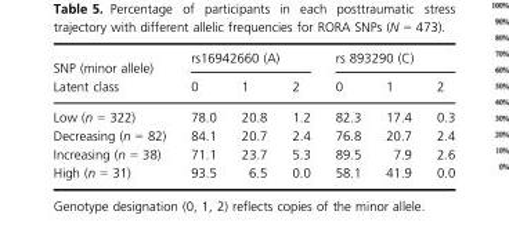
<table><thead><tr><td rowspan="2">SNP (minor allele) Latent class</td><td colspan="3">rs16942660 (A)</td><td colspan="3">rs 893290 (C)</td></tr><tr><td>0</td><td>1</td><td>2</td><td>0</td><td>1</td><td>2</td></tr></thead><tbody><tr><td>Low (n = 322)</td><td>78.0</td><td>20.8</td><td>1.2</td><td>82.3</td><td>17.4</td><td>0.3</td></tr><tr><td>Decreasing (n = 82)</td><td>84.1</td><td>20.7</td><td>2.4</td><td>76.8</td><td>20.7</td><td>2.4</td></tr><tr><td>Increasing (n = 38)</td><td>71.1</td><td>23.7</td><td>5.3</td><td>89.5</td><td>7.9</td><td>2.6</td></tr><tr><td>High (n = 31)</td><td>93.5</td><td>6.5</td><td>0.0</td><td>58.1</td><td>41.9</td><td>0.0</td></tr></tbody></table>